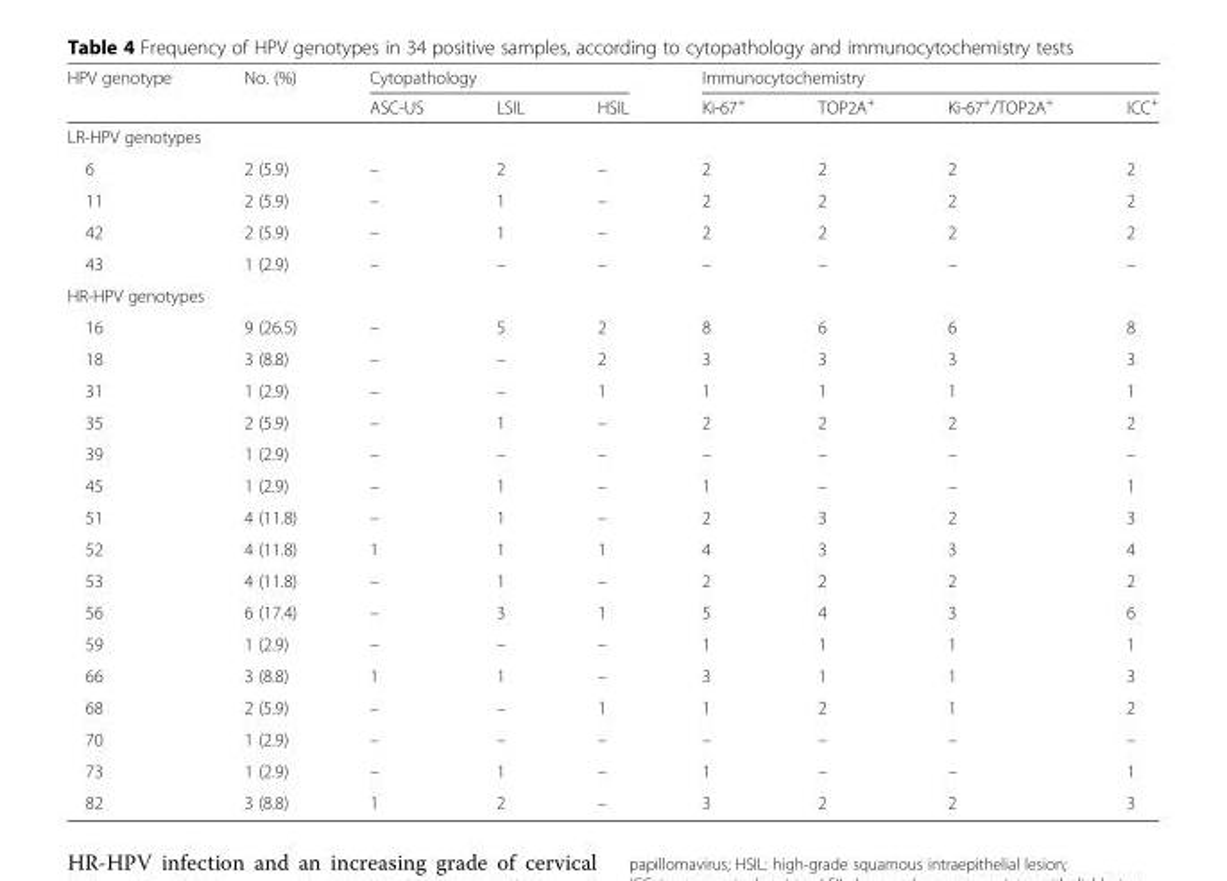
<table><thead><tr><td rowspan="2">HPV genotype</td><td rowspan="2">No. (%)</td><td colspan="3">Cytopathology</td><td colspan="4">Immunocytochemistry</td></tr><tr><td>ASC-US</td><td>LSIL</td><td>HSIL</td><td>Ki-67<sup>+</sup></td><td>TOP2A<sup>+</sup></td><td>Ki-67<sup>+</sup>/TOP2A<sup>+</sup></td><td>ICC<sup>+</sup></td></tr></thead><tbody><tr><td colspan="9">LR-HPV genotypes</td></tr><tr><td>6</td><td>2 (5.9)</td><td>–</td><td>2</td><td>–</td><td>2</td><td>2</td><td>2</td><td>2</td></tr><tr><td>11</td><td>2 (5.9)</td><td>–</td><td>1</td><td>–</td><td>2</td><td>2</td><td>2</td><td>2</td></tr><tr><td>42</td><td>2 (5.9)</td><td>–</td><td>1</td><td>–</td><td>2</td><td>2</td><td>2</td><td>2</td></tr><tr><td>43</td><td>1 (2.9)</td><td>–</td><td>–</td><td>–</td><td>–</td><td>–</td><td>–</td><td>–</td></tr><tr><td colspan="9">HR-HPV genotypes</td></tr><tr><td>16</td><td>9 (26.5)</td><td>–</td><td>5</td><td>2</td><td>8</td><td>6</td><td>6</td><td>8</td></tr><tr><td>18</td><td>3 (8.8)</td><td>–</td><td>–</td><td>2</td><td>3</td><td>3</td><td>3</td><td>3</td></tr><tr><td>31</td><td>1 (2.9)</td><td>–</td><td>–</td><td>1</td><td>1</td><td>1</td><td>1</td><td>1</td></tr><tr><td>35</td><td>2 (5.9)</td><td>–</td><td>1</td><td>–</td><td>2</td><td>2</td><td>2</td><td>2</td></tr><tr><td>39</td><td>1 (2.9)</td><td>–</td><td>–</td><td>–</td><td>–</td><td>–</td><td>–</td><td>–</td></tr><tr><td>45</td><td>1 (2.9)</td><td>–</td><td>1</td><td>–</td><td>1</td><td>–</td><td>–</td><td>1</td></tr><tr><td>51</td><td>4 (11.8)</td><td>–</td><td>1</td><td>–</td><td>2</td><td>3</td><td>2</td><td>3</td></tr><tr><td>52</td><td>4 (11.8)</td><td>1</td><td>1</td><td>1</td><td>4</td><td>3</td><td>3</td><td>4</td></tr><tr><td>53</td><td>4 (11.8)</td><td>–</td><td>1</td><td>–</td><td>2</td><td>2</td><td>2</td><td>2</td></tr><tr><td>56</td><td>6 (17.4)</td><td>–</td><td>3</td><td>1</td><td>5</td><td>4</td><td>3</td><td>6</td></tr><tr><td>59</td><td>1 (2.9)</td><td>–</td><td>–</td><td>–</td><td>1</td><td>1</td><td>1</td><td>1</td></tr><tr><td>66</td><td>3 (8.8)</td><td>1</td><td>1</td><td>–</td><td>3</td><td>1</td><td>1</td><td>3</td></tr><tr><td>68</td><td>2 (5.9)</td><td>–</td><td>–</td><td>1</td><td>1</td><td>2</td><td>1</td><td>2</td></tr><tr><td>70</td><td>1 (2.9)</td><td>–</td><td>–</td><td>–</td><td>–</td><td>–</td><td>–</td><td>–</td></tr><tr><td>73</td><td>1 (2.9)</td><td>–</td><td>1</td><td>–</td><td>1</td><td>–</td><td>–</td><td>1</td></tr><tr><td>82</td><td>3 (8.8)</td><td>1</td><td>2</td><td>–</td><td>3</td><td>2</td><td>2</td><td>3</td></tr></tbody></table>